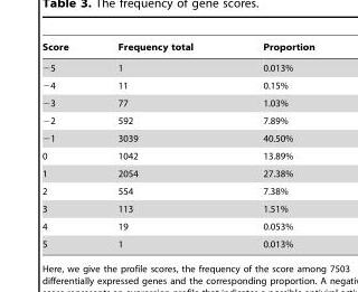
<table><thead><tr><td>Score</td><td>Frequency total</td><td>Proportion</td></tr></thead><tbody><tr><td>−5</td><td>1</td><td>0.013%</td></tr><tr><td>−4</td><td>11</td><td>0.15%</td></tr><tr><td>−3</td><td>77</td><td>1.03%</td></tr><tr><td>−2</td><td>592</td><td>7.89%</td></tr><tr><td>−1</td><td>3039</td><td>40.50%</td></tr><tr><td>0</td><td>1042</td><td>13.89%</td></tr><tr><td>1</td><td>2054</td><td>27.38%</td></tr><tr><td>2</td><td>554</td><td>7.38%</td></tr><tr><td>3</td><td>113</td><td>1.51%</td></tr><tr><td>4</td><td>19</td><td>0.053%</td></tr><tr><td>5</td><td>1</td><td>0.013%</td></tr></tbody></table>